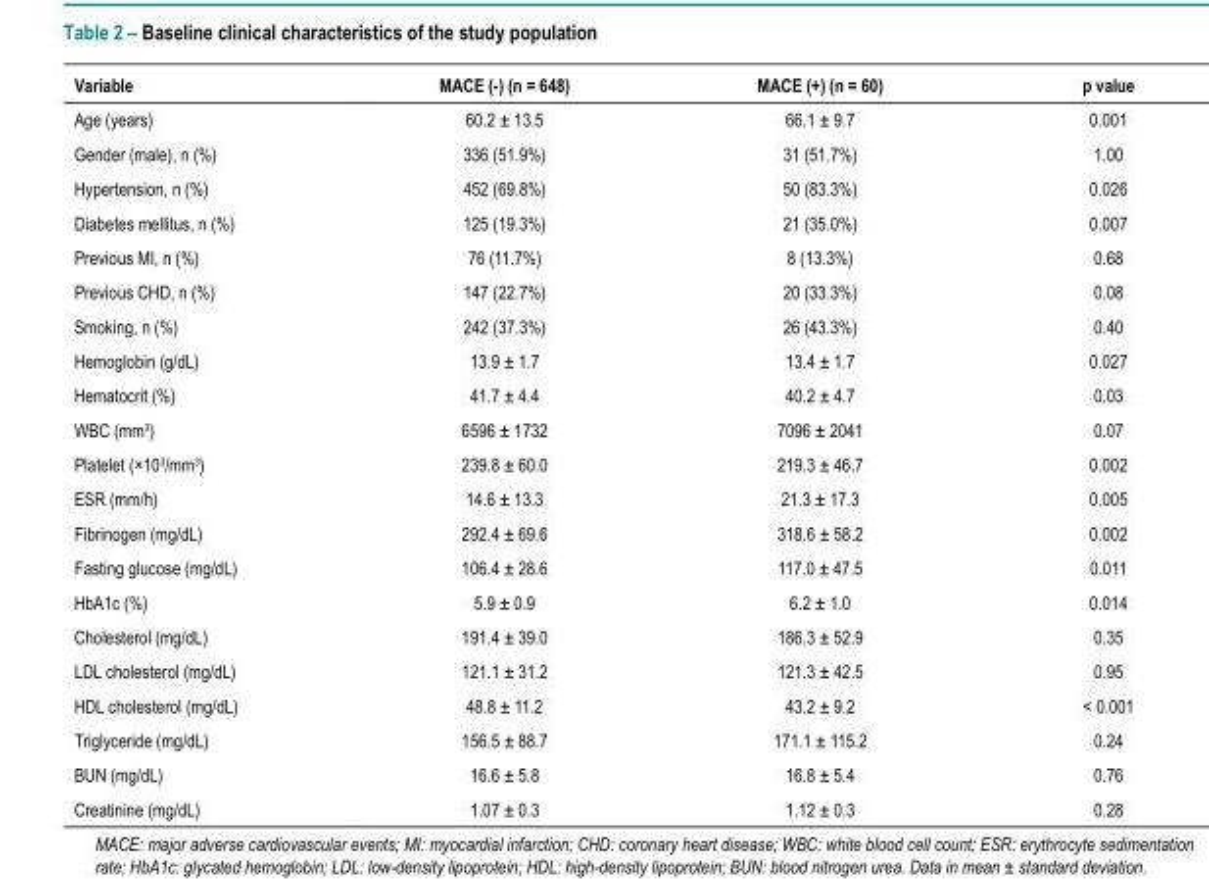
<table><thead><tr><td>Variable</td><td>MACE (-) (n = 648)</td><td>MACE (+) (n = 60)</td><td>p value</td></tr></thead><tbody><tr><td>Age (years)</td><td>60.2 ± 13.5</td><td>66.1 ± 9.7</td><td>0.001</td></tr><tr><td>Gender (male), n (%)</td><td>336 (51.9%)</td><td>31 (51.7%)</td><td>1.00</td></tr><tr><td>Hypertension, n (%)</td><td>452 (69.8%)</td><td>50 (83.3%)</td><td>0.026</td></tr><tr><td>Diabetes mellitus, n (%)</td><td>125 (19.3%)</td><td>21 (35.0%)</td><td>0.007</td></tr><tr><td>Previous MI, n (%)</td><td>76 (11.7%)</td><td>8 (13.3%)</td><td>0.68</td></tr><tr><td>Previous CHD, n (%)</td><td>147 (22.7%)</td><td>20 (33.3%)</td><td>0.08</td></tr><tr><td>Smoking, n (%)</td><td>242 (37.3%)</td><td>26 (43.3%)</td><td>0.40</td></tr><tr><td>Hemoglobin (g/dL)</td><td>13.9 ± 1.7</td><td>13.4 ± 1.7</td><td>0.027</td></tr><tr><td>Hematocrit (%)</td><td>41.7 ± 4.4</td><td>40.2 ± 4.7</td><td>0.03</td></tr><tr><td>WBC (mm3)</td><td>6596 ± 1732</td><td>7096 ± 2041</td><td>0.07</td></tr><tr><td>Platelet (×103/mm3)</td><td>239.8 ± 60.0</td><td>219.3 ± 46.7</td><td>0.002</td></tr><tr><td>ESR (mm/h)</td><td>14.6 ± 13.3</td><td>21.3 ± 17.3</td><td>0.005</td></tr><tr><td>Fibrinogen (mg/dL)</td><td>292.4 ± 69.6</td><td>318.6 ± 58.2</td><td>0.002</td></tr><tr><td>Fasting glucose (mg/dL)</td><td>106.4 ± 28.6</td><td>117.0 ± 47.5</td><td>0.011</td></tr><tr><td>HbA1c (%)</td><td>5.9 ± 0.9</td><td>6.2 ± 1.0</td><td>0.014</td></tr><tr><td>Cholesterol (mg/dL)</td><td>191.4 ± 39.0</td><td>186.3 ± 52.9</td><td>0.35</td></tr><tr><td>LDL cholesterol (mg/dL)</td><td>121.1 ± 31.2</td><td>121.3 ± 42.5</td><td>0.95</td></tr><tr><td>HDL cholesterol (mg/dL)</td><td>48.8 ± 11.2</td><td>43.2 ± 9.2</td><td>&lt; 0.001</td></tr><tr><td>Triglyceride (mg/dL)</td><td>156.5 ± 88.7</td><td>171.1 ± 115.2</td><td>0.24</td></tr><tr><td>BUN (mg/dL)</td><td>16.6 ± 5.8</td><td>16.8 ± 5.4</td><td>0.76</td></tr><tr><td>Creatinine (mg/dL)</td><td>1.07 ± 0.3</td><td>1.12 ± 0.3</td><td>0.28</td></tr></tbody></table>